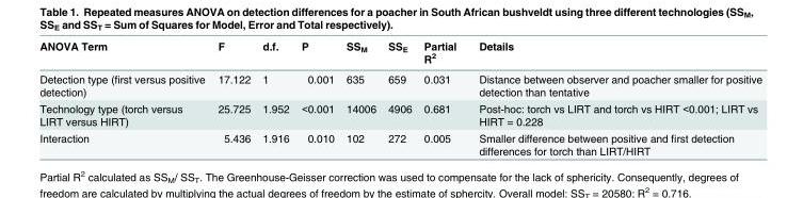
<table><thead><tr><td>ANOVA Term</td><td>F</td><td>d.f.</td><td>P</td><td>SS<sub>M</sub></td><td>SS<sub>E</sub></td><td>Partial R<sup>2</sup></td><td>Details</td></tr></thead><tbody><tr><td>Detection type (first versus positive detection)</td><td>17.122</td><td>1</td><td>0.001</td><td>635</td><td>659</td><td>0.031</td><td>Distance between observer and poacher smaller for positive detection than tentative</td></tr><tr><td>Technology type (torch versus LIRT versus HIRT)</td><td>25.725</td><td>1.952</td><td>&lt;0.001</td><td>14006</td><td>4906</td><td>0.681</td><td>Post-hoc: torch vs LIRT and torch vs HIRT &lt;0.001; LIRT vs HIRT = 0.228</td></tr><tr><td>Interaction</td><td>5.436</td><td>1.916</td><td>0.010</td><td>102</td><td>272</td><td>0.005</td><td>Smaller difference between positive and first detection differences for torch than LIRT/HIRT</td></tr></tbody></table>